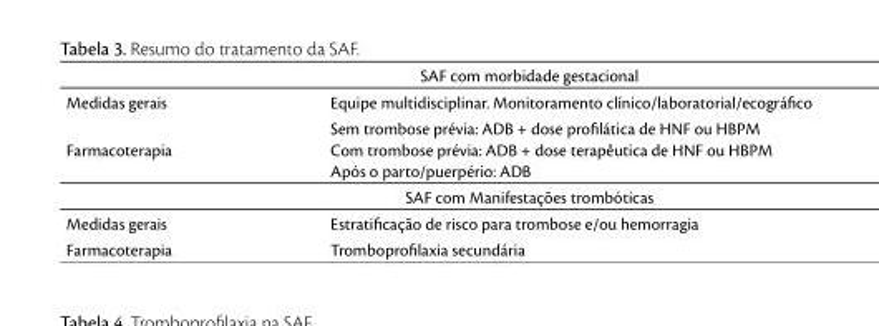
<table><thead><tr><td colspan="2">SAF com morbidade gestacional</td></tr><tr><td>Medidas gerais</td><td>Equipe multidisciplinar. Monitoramento clínico/laboratorial/ecográfico</td></tr></thead><tbody><tr><td>Farmacoterapia</td><td>Sem trombose prévia: ADB + dose profilática de HNF ou HBPM Com trombose prévia: ADB + dose terapêutica de HNF ou HBPM Após o parto/puerpério: ADB</td></tr><tr><td colspan="2">SAF com Manifestações trombóticas</td></tr><tr><td>Medidas gerais</td><td>Estratificação de risco para trombose e/ou hemorragia</td></tr><tr><td>Farmacoterapia</td><td>Tromboprofilaxia secundária</td></tr></tbody></table>